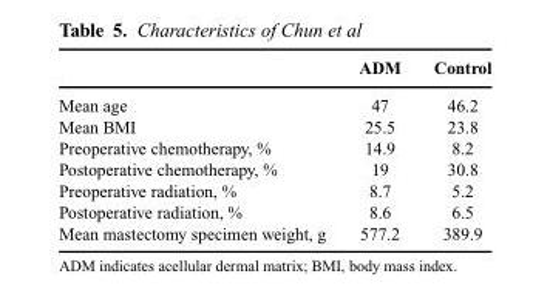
<table><thead><tr><td></td><td>ADM</td><td>Control</td></tr></thead><tbody><tr><td>Mean age</td><td>47</td><td>46.2</td></tr><tr><td>Mean BMI</td><td>25.5</td><td>23.8</td></tr><tr><td>Preoperative chemotherapy, %</td><td>14.9</td><td>8.2</td></tr><tr><td>Postoperative chemotherapy, %</td><td>19</td><td>30.8</td></tr><tr><td>Preoperative radiation, %</td><td>8.7</td><td>5.2</td></tr><tr><td>Postoperative radiation, %</td><td>8.6</td><td>6.5</td></tr><tr><td>Mean mastectomy specimen weight, g</td><td>577.2</td><td>389.9</td></tr></tbody></table>